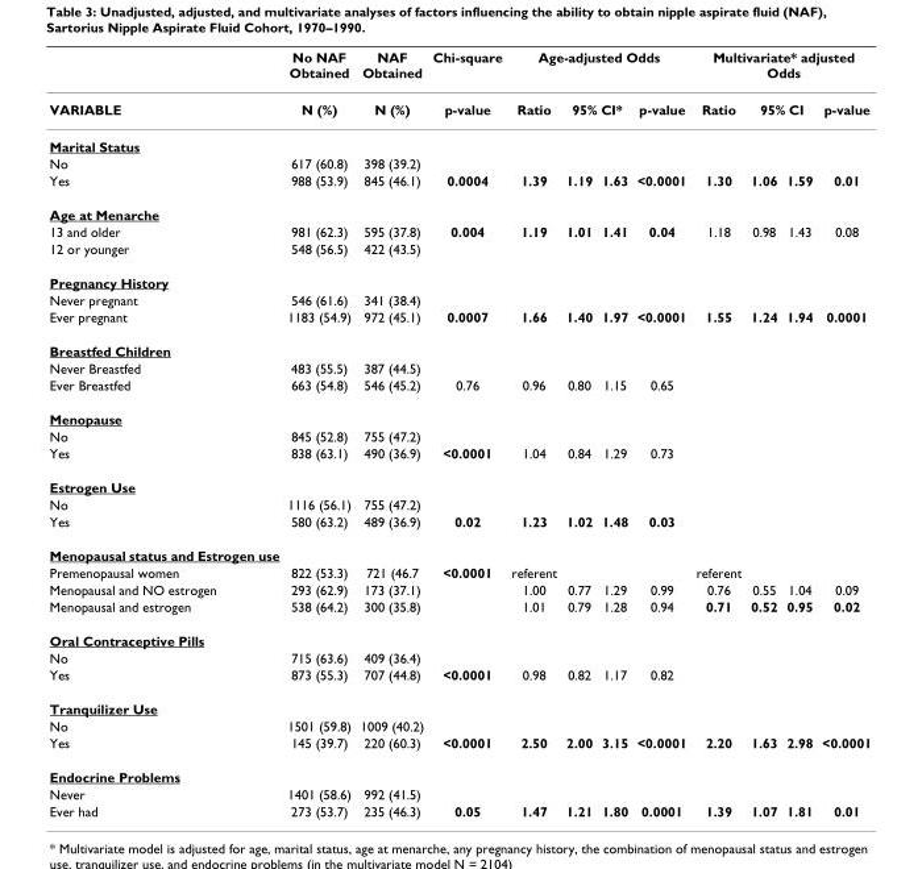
<table><thead><tr><td rowspan="3">VARIABLE Marital Status</td><td rowspan="3">No NAF Obtained N (%)</td><td rowspan="3">NAF Obtained N (%)</td><td rowspan="3">Chi-square p-value</td><td colspan="4">Age-adjusted Odds</td><td colspan="4">Multivariate* adjusted Odds</td></tr><tr><td rowspan="2">Ratio</td><td colspan="2">95% CI*</td><td rowspan="2">p-value</td><td rowspan="2">Ratio</td><td colspan="2">95% CI</td><td rowspan="2">p-value</td></tr><tr><td></td><td></td><td></td><td></td></tr></thead><tbody><tr><td>No</td><td>617 (60.8)</td><td>398 (39.2)</td><td></td><td></td><td></td><td></td><td></td><td></td><td></td><td></td><td></td></tr><tr><td>Yes</td><td>988 (53.9)</td><td>845 (46.1)</td><td>0.0004</td><td>1.39</td><td>1.19</td><td>1.63</td><td>&lt;0.0001</td><td>1.30</td><td>1.06</td><td>1.59</td><td>0.01</td></tr><tr><td colspan="12">Age at Menarche</td></tr><tr><td>13 and older</td><td>981 (62.3)</td><td>595 (37.8)</td><td>0.004</td><td>1.19</td><td>1.01</td><td>1.41</td><td>0.04</td><td>1.18</td><td>0.98</td><td>1.43</td><td>0.08</td></tr><tr><td>12 or younger</td><td>548 (56.5)</td><td>422 (43.5)</td><td></td><td></td><td></td><td></td><td></td><td></td><td></td><td></td><td></td></tr><tr><td colspan="12">Pregnancy History</td></tr><tr><td>Never pregnant</td><td>546 (61.6)</td><td>341 (38.4)</td><td></td><td></td><td></td><td></td><td></td><td></td><td></td><td></td><td></td></tr><tr><td>Ever pregnant</td><td>1183 (54.9)</td><td>972 (45.1)</td><td>0.0007</td><td>1.66</td><td>1.40</td><td>1.97</td><td>&lt;0.0001</td><td>1.55</td><td>1.24</td><td>1.94</td><td>0.0001</td></tr><tr><td colspan="12">Breastfed Children</td></tr><tr><td>Never Breastfed</td><td>483 (55.5)</td><td>387 (44.5)</td><td></td><td></td><td></td><td></td><td></td><td></td><td></td><td></td><td></td></tr><tr><td>Ever Breastfed</td><td>663 (54.8)</td><td>546 (45.2)</td><td>0.76</td><td>0.96</td><td>0.80</td><td>1.15</td><td>0.65</td><td></td><td></td><td></td><td></td></tr><tr><td colspan="12">Menopause</td></tr><tr><td>No</td><td>845 (52.8)</td><td>755 (47.2)</td><td></td><td></td><td></td><td></td><td></td><td></td><td></td><td></td><td></td></tr><tr><td>Yes</td><td>838 (63.1)</td><td>490 (36.9)</td><td>&lt;0.0001</td><td>1.04</td><td>0.84</td><td>1.29</td><td>0.73</td><td></td><td></td><td></td><td></td></tr><tr><td colspan="12">Estrogen Use</td></tr><tr><td>No</td><td>1116 (56.1)</td><td>755 (47.2)</td><td></td><td></td><td></td><td></td><td></td><td></td><td></td><td></td><td></td></tr><tr><td>Yes</td><td>580 (63.2)</td><td>489 (36.9)</td><td>0.02</td><td>1.23</td><td>1.02</td><td>1.48</td><td>0.03</td><td></td><td></td><td></td><td></td></tr><tr><td colspan="12">Menopausal status and Estrogen use</td></tr><tr><td>Premenopausal women</td><td>822 (53.3)</td><td>721 (46.7</td><td>&lt;0.0001</td><td>referent</td><td></td><td></td><td></td><td>referent</td><td></td><td></td><td></td></tr><tr><td>Menopausal and NO estrogen</td><td>293 (62.9)</td><td>173 (37.1)</td><td></td><td>1.00</td><td>0.77</td><td>1.29</td><td>0.99</td><td>0.76</td><td>0.55</td><td>1.04</td><td>0.09</td></tr><tr><td>Menopausal and estrogen</td><td>538 (64.2)</td><td>300 (35.8)</td><td></td><td>1.01</td><td>0.79</td><td>1.28</td><td>0.94</td><td>0.71</td><td>0.52</td><td>0.95</td><td>0.02</td></tr><tr><td colspan="12">Oral Contraceptive Pills</td></tr><tr><td>No</td><td>715 (63.6)</td><td>409 (36.4)</td><td></td><td></td><td></td><td></td><td></td><td></td><td></td><td></td><td></td></tr><tr><td>Yes</td><td>873 (55.3)</td><td>707 (44.8)</td><td>&lt;0.0001</td><td>0.98</td><td>0.82</td><td>1.17</td><td>0.82</td><td></td><td></td><td></td><td></td></tr><tr><td colspan="12">Tranquilizer Use</td></tr><tr><td>No</td><td>1501 (59.8)</td><td>1009 (40.2)</td><td></td><td></td><td></td><td></td><td></td><td></td><td></td><td></td><td></td></tr><tr><td>Yes</td><td>145 (39.7)</td><td>220 (60.3)</td><td>&lt;0.0001</td><td>2.50</td><td>2.00</td><td>3.15</td><td>&lt;0.0001</td><td>2.20</td><td>1.63</td><td>2.98</td><td>&lt;0.0001</td></tr><tr><td colspan="12">Endocrine Problems</td></tr><tr><td>Never</td><td>1401 (58.6)</td><td>992 (41.5)</td><td></td><td></td><td></td><td></td><td></td><td></td><td></td><td></td><td></td></tr><tr><td>Ever had</td><td>273 (53.7)</td><td>235 (46.3)</td><td>0.05</td><td>1.47</td><td>1.21</td><td>1.80</td><td>0.0001</td><td>1.39</td><td>1.07</td><td>1.81</td><td>0.01</td></tr></tbody></table>